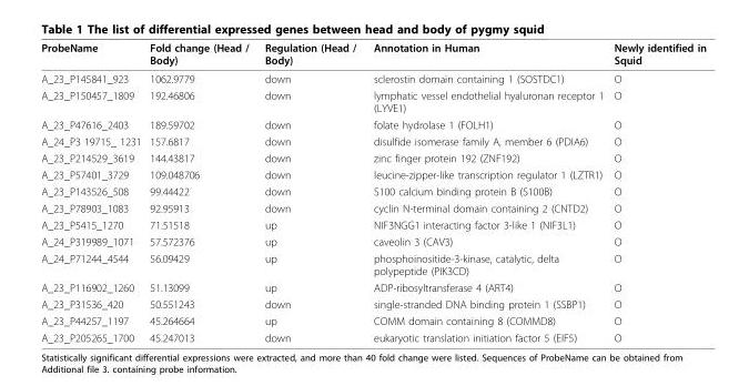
<table><thead><tr><td>ProbeName</td><td>Fold change (Head / Body)</td><td>Regulation (Head / Body)</td><td>Annotation in Human</td><td>Newly identified in Squid</td></tr></thead><tbody><tr><td>A_23_P145841_923</td><td>1062.9779</td><td>down</td><td>sclerostin domain containing 1 (SOSTDC1)</td><td>O</td></tr><tr><td>A_23_P150457_1809</td><td>192.46806</td><td>down</td><td>lymphatic vessel endothelial hyaluronan receptor 1 (LYVE1)</td><td>O</td></tr><tr><td>A_23_P47616_2403</td><td>189.59702</td><td>down</td><td>folate hydrolase 1 (FOLH1)</td><td>O</td></tr><tr><td>A_24_P3 19715_ 1231</td><td>157.6817</td><td>down</td><td>disulfide isomerase family A, member 6 (PDIA6)</td><td>O</td></tr><tr><td>A_23_P214529_3619</td><td>144.43817</td><td>down</td><td>zinc finger protein 192 (ZNF192)</td><td>O</td></tr><tr><td>A_23_P57401_3729</td><td>109.048706</td><td>down</td><td>leucine-zipper-like transcription regulator 1 (LZTR1)</td><td>O</td></tr><tr><td>A_23_P143526_508</td><td>99.44422</td><td>down</td><td>S100 calcium binding protein B (S100B)</td><td>O</td></tr><tr><td>A_23_P78903_1083</td><td>92.95913</td><td>down</td><td>cyclin N-terminal domain containing 2 (CNTD2)</td><td>O</td></tr><tr><td>A_23_P5415_1270</td><td>71.51518</td><td>up</td><td>NIF3NGG1 interacting factor 3-like 1 (NIF3L1)</td><td>O</td></tr><tr><td>A_24_P319989_1071</td><td>57.572376</td><td>up</td><td>caveolin 3 (CAV3)</td><td>O</td></tr><tr><td>A_24_P71244_4544</td><td>56.09429</td><td>up</td><td>phosphoinositide-3-kinase, catalytic, delta polypeptide (PIK3CD)</td><td>O</td></tr><tr><td>A_23_P116902_1260</td><td>51.13099</td><td>up</td><td>ADP-ribosyltransferase 4 (ART4)</td><td>O</td></tr><tr><td>A_23_P31536_420</td><td>50.551243</td><td>down</td><td>single-stranded DNA binding protein 1 (SSBP1)</td><td>O</td></tr><tr><td>A_23_P44257_1197</td><td>45.264664</td><td>up</td><td>COMM domain containing 8 (COMMD8)</td><td>O</td></tr><tr><td>A_23_P205265_1700</td><td>45.247013</td><td>down</td><td>eukaryotic translation initiation factor 5 (EIF5)</td><td>O</td></tr></tbody></table>